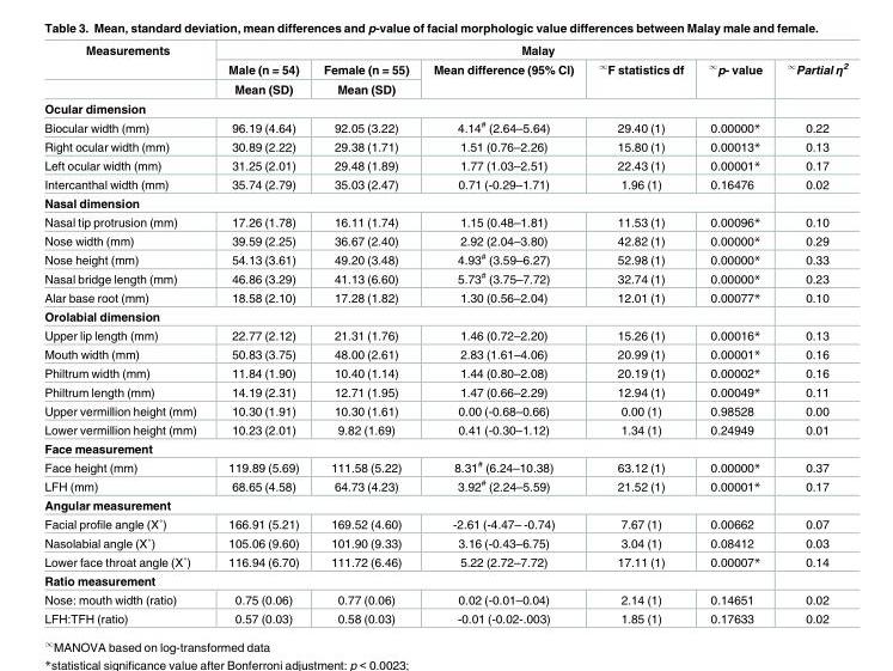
<table><thead><tr><td rowspan="3">Measurements</td><td colspan="6">Malay</td></tr><tr><td rowspan="2">Male (n = 54) Mean (SD)</td><td rowspan="2">Female (n = 55) Mean (SD)</td><td rowspan="2">Mean difference (95% CI)</td><td rowspan="2"><sup>∞</sup>F statistics df</td><td rowspan="2"><sup>∞</sup>p- value</td><td rowspan="2"><sup>∞</sup>Partial η<sup>2</sup></td></tr><tr></tr></thead><tbody><tr><td colspan="7">Ocular dimension</td></tr><tr><td>Biocular width (mm)</td><td>96.19 (4.64)</td><td>92.05 (3.22)</td><td>4.14<sup>#</sup> (2.64–5.64)</td><td>29.40 (1)</td><td>0.00000*</td><td>0.22</td></tr><tr><td>Right ocular width (mm)</td><td>30.89 (2.22)</td><td>29.38 (1.71)</td><td>1.51 (0.76–2.26)</td><td>15.80 (1)</td><td>0.00013*</td><td>0.13</td></tr><tr><td>Left ocular width (mm)</td><td>31.25 (2.01)</td><td>29.48 (1.89)</td><td>1.77 (1.03–2.51)</td><td>22.43 (1)</td><td>0.00001*</td><td>0.17</td></tr><tr><td>Intercanthal width (mm)</td><td>35.74 (2.79)</td><td>35.03 (2.47)</td><td>0.71 (-0.29–1.71)</td><td>1.96 (1)</td><td>0.16476</td><td>0.02</td></tr><tr><td colspan="7">Nasal dimension</td></tr><tr><td>Nasal tip protrusion (mm)</td><td>17.26 (1.78)</td><td>16.11 (1.74)</td><td>1.15 (0.48–1.81)</td><td>11.53 (1)</td><td>0.00096*</td><td>0.10</td></tr><tr><td>Nose width (mm)</td><td>39.59 (2.25)</td><td>36.67 (2.40)</td><td>2.92 (2.04–3.80)</td><td>42.82 (1)</td><td>0.00000*</td><td>0.29</td></tr><tr><td>Nose height (mm)</td><td>54.13 (3.61)</td><td>49.20 (3.48)</td><td>4.93<sup>#</sup> (3.59–6.27)</td><td>52.98 (1)</td><td>0.00000*</td><td>0.33</td></tr><tr><td>Nasal bridge length (mm)</td><td>46.86 (3.29)</td><td>41.13 (6.60)</td><td>5.73<sup>#</sup> (3.75–7.72)</td><td>32.74 (1)</td><td>0.00000*</td><td>0.23</td></tr><tr><td>Alar base root (mm)</td><td>18.58 (2.10)</td><td>17.28 (1.82)</td><td>1.30 (0.56–2.04)</td><td>12.01 (1)</td><td>0.00077*</td><td>0.10</td></tr><tr><td colspan="7">Orolabial dimension</td></tr><tr><td>Upper lip length (mm)</td><td>22.77 (2.12)</td><td>21.31 (1.76)</td><td>1.46 (0.72–2.20)</td><td>15.26 (1)</td><td>0.00016*</td><td>0.13</td></tr><tr><td>Mouth width (mm)</td><td>50.83 (3.75)</td><td>48.00 (2.61)</td><td>2.83 (1.61–4.06)</td><td>20.99 (1)</td><td>0.00001*</td><td>0.16</td></tr><tr><td>Philtrum width (mm)</td><td>11.84 (1.90)</td><td>10.40 (1.14)</td><td>1.44 (0.80–2.08)</td><td>20.19 (1)</td><td>0.00002*</td><td>0.16</td></tr><tr><td>Philtrum length (mm)</td><td>14.19 (2.31)</td><td>12.71 (1.95)</td><td>1.47 (0.66–2.29)</td><td>12.94 (1)</td><td>0.00049*</td><td>0.11</td></tr><tr><td>Upper vermillion height (mm)</td><td>10.30 (1.91)</td><td>10.30 (1.61)</td><td>0.00 (-0.68–0.66)</td><td>0.00 (1)</td><td>0.98528</td><td>0.00</td></tr><tr><td>Lower vermillion height (mm)</td><td>10.23 (2.01)</td><td>9.82 (1.69)</td><td>0.41 (-0.30–1.12)</td><td>1.34 (1)</td><td>0.24949</td><td>0.01</td></tr><tr><td colspan="7">Face measurement</td></tr><tr><td>Face height (mm)</td><td>119.89 (5.69)</td><td>111.58 (5.22)</td><td>8.31<sup>#</sup> (6.24–10.38)</td><td>63.12 (1)</td><td>0.00000*</td><td>0.37</td></tr><tr><td>LFH (mm)</td><td>68.65 (4.58)</td><td>64.73 (4.23)</td><td>3.92<sup>#</sup> (2.24–5.59)</td><td>21.52 (1)</td><td>0.00001*</td><td>0.17</td></tr><tr><td colspan="7">Angular measurement</td></tr><tr><td>Facial profile angle (X˚)</td><td>166.91 (5.21)</td><td>169.52 (4.60)</td><td>-2.61 (-4.47– -0.74)</td><td>7.67 (1)</td><td>0.00662</td><td>0.07</td></tr><tr><td>Nasolabial angle (X˚)</td><td>105.06 (9.60)</td><td>101.90 (9.33)</td><td>3.16 (-0.43–6.75)</td><td>3.04 (1)</td><td>0.08412</td><td>0.03</td></tr><tr><td>Lower face throat angle (X˚)</td><td>116.94 (6.70)</td><td>111.72 (6.46)</td><td>5.22 (2.72–7.72)</td><td>17.11 (1)</td><td>0.00007*</td><td>0.14</td></tr><tr><td colspan="7">Ratio measurement</td></tr><tr><td>Nose: mouth width (ratio)</td><td>0.75 (0.06)</td><td>0.77 (0.06)</td><td>0.02 (-0.01–0.04)</td><td>2.14 (1)</td><td>0.14651</td><td>0.02</td></tr><tr><td>LFH:TFH (ratio)</td><td>0.57 (0.03)</td><td>0.58 (0.03)</td><td>-0.01 (-0.02-.003)</td><td>1.85 (1)</td><td>0.17633</td><td>0.02</td></tr></tbody></table>